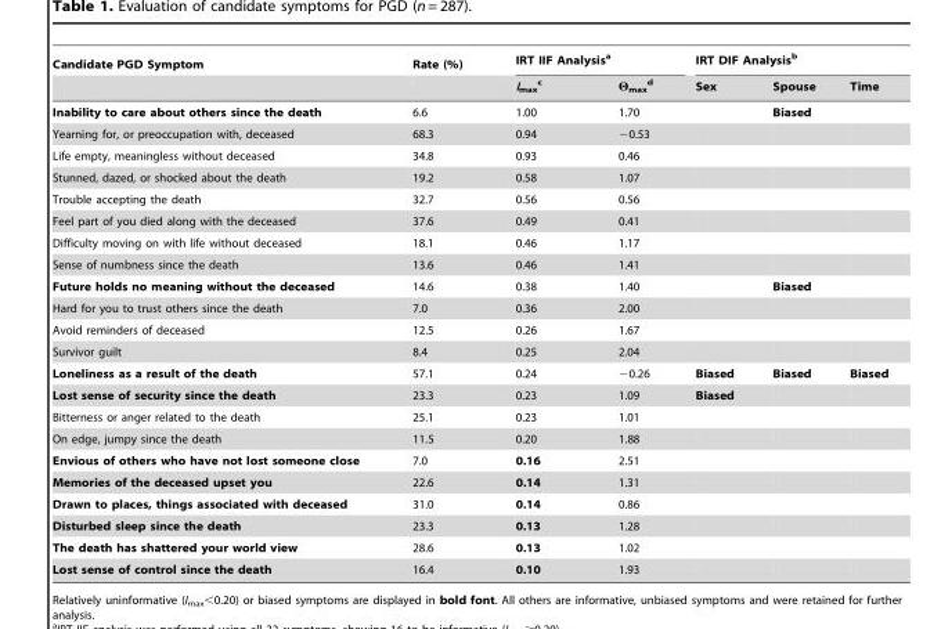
<table><thead><tr><td rowspan="2">Candidate PGD Symptom</td><td rowspan="2">Rate (%)</td><td colspan="2">IRT IIF Analysis<sup>a</sup></td><td colspan="3">IRT DIF Analysis<sup>b</sup></td></tr><tr><td>I<sub>max</sub> c</td><td>Θ<sub>max</sub> d</td><td>Sex</td><td>Spouse</td><td>Time</td></tr></thead><tbody><tr><td>Inability to care about others since the death</td><td>6.6</td><td>1.00</td><td>1.70</td><td></td><td>Biased</td><td></td></tr><tr><td>Yearning for, or preoccupation with, deceased</td><td>68.3</td><td>0.94</td><td>−0.53</td><td></td><td></td><td></td></tr><tr><td>Life empty, meaningless without deceased</td><td>34.8</td><td>0.93</td><td>0.46</td><td></td><td></td><td></td></tr><tr><td>Stunned, dazed, or shocked about the death</td><td>19.2</td><td>0.58</td><td>1.07</td><td></td><td></td><td></td></tr><tr><td>Trouble accepting the death</td><td>32.7</td><td>0.56</td><td>0.56</td><td></td><td></td><td></td></tr><tr><td>Feel part of you died along with the deceased</td><td>37.6</td><td>0.49</td><td>0.41</td><td></td><td></td><td></td></tr><tr><td>Difficulty moving on with life without deceased</td><td>18.1</td><td>0.46</td><td>1.17</td><td></td><td></td><td></td></tr><tr><td>Sense of numbness since the death</td><td>13.6</td><td>0.46</td><td>1.41</td><td></td><td></td><td></td></tr><tr><td>Future holds no meaning without the deceased</td><td>14.6</td><td>0.38</td><td>1.40</td><td></td><td>Biased</td><td></td></tr><tr><td>Hard for you to trust others since the death</td><td>7.0</td><td>0.36</td><td>2.00</td><td></td><td></td><td></td></tr><tr><td>Avoid reminders of deceased</td><td>12.5</td><td>0.26</td><td>1.67</td><td></td><td></td><td></td></tr><tr><td>Survivor guilt</td><td>8.4</td><td>0.25</td><td>2.04</td><td></td><td></td><td></td></tr><tr><td>Loneliness as a result of the death</td><td>57.1</td><td>0.24</td><td>−0.26</td><td>Biased</td><td>Biased</td><td>Biased</td></tr><tr><td>Lost sense of security since the death</td><td>23.3</td><td>0.23</td><td>1.09</td><td>Biased</td><td></td><td></td></tr><tr><td>Bitterness or anger related to the death</td><td>25.1</td><td>0.23</td><td>1.01</td><td></td><td></td><td></td></tr><tr><td>On edge, jumpy since the death</td><td>11.5</td><td>0.20</td><td>1.88</td><td></td><td></td><td></td></tr><tr><td>Envious of others who have not lost someone close</td><td>7.0</td><td>0.16</td><td>2.51</td><td></td><td></td><td></td></tr><tr><td>Memories of the deceased upset you</td><td>22.6</td><td>0.14</td><td>1.31</td><td></td><td></td><td></td></tr><tr><td>Drawn to places, things associated with deceased</td><td>31.0</td><td>0.14</td><td>0.86</td><td></td><td></td><td></td></tr><tr><td>Disturbed sleep since the death</td><td>23.3</td><td>0.13</td><td>1.28</td><td></td><td></td><td></td></tr><tr><td>The death has shattered your world view</td><td>28.6</td><td>0.13</td><td>1.02</td><td></td><td></td><td></td></tr><tr><td>Lost sense of control since the death</td><td>16.4</td><td>0.10</td><td>1.93</td><td></td><td></td><td></td></tr></tbody></table>